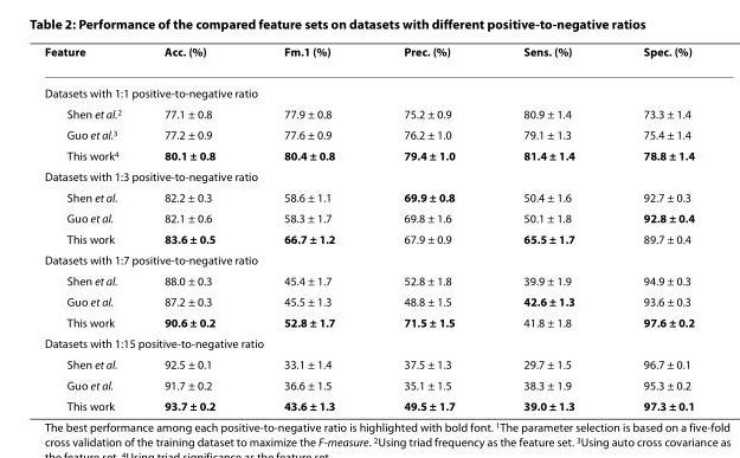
<table><thead><tr><td>Feature</td><td>Acc. (%)</td><td>Fm.<sup>1</sup> (%)</td><td>Prec. (%)</td><td>Sens. (%)</td><td>Spec. (%)</td></tr></thead><tbody><tr><td colspan="6">Datasets with 1:1 positive-to-negative ratio</td></tr><tr><td>Shen et al.<sup>2</sup></td><td>77.1 ± 0.8</td><td>77.9 ± 0.8</td><td>75.2 ± 0.9</td><td>80.9 ± 1.4</td><td>73.3 ± 1.4</td></tr><tr><td>Guo et al.<sup>3</sup></td><td>77.2 ± 0.9</td><td>77.6 ± 0.9</td><td>76.2 ± 1.0</td><td>79.1 ± 1.3</td><td>75.4 ± 1.4</td></tr><tr><td>This work<sup>4</sup></td><td>80.1 ± 0.8</td><td>80.4 ± 0.8</td><td>79.4 ± 1.0</td><td>81.4 ± 1.4</td><td>78.8 ± 1.4</td></tr><tr><td colspan="6">Datasets with 1:3 positive-to-negative ratio</td></tr><tr><td>Shen et al.</td><td>82.2 ± 0.3</td><td>58.6 ± 1.1</td><td>69.9 ± 0.8</td><td>50.4 ± 1.6</td><td>92.7 ± 0.3</td></tr><tr><td>Guo et al.</td><td>82.1 ± 0.6</td><td>58.3 ± 1.7</td><td>69.8 ± 1.6</td><td>50.1 ± 1.8</td><td>92.8 ± 0.4</td></tr><tr><td>This work</td><td>83.6 ± 0.5</td><td>66.7 ± 1.2</td><td>67.9 ± 0.9</td><td>65.5 ± 1.7</td><td>89.7 ± 0.4</td></tr><tr><td colspan="6">Datasets with 1:7 positive-to-negative ratio</td></tr><tr><td>Shen et al.</td><td>88.0 ± 0.3</td><td>45.4 ± 1.7</td><td>52.8 ± 1.8</td><td>39.9 ± 1.9</td><td>94.9 ± 0.3</td></tr><tr><td>Guo et al.</td><td>87.2 ± 0.3</td><td>45.5 ± 1.3</td><td>48.8 ± 1.5</td><td>42.6 ± 1.3</td><td>93.6 ± 0.3</td></tr><tr><td>This work</td><td>90.6 ± 0.2</td><td>52.8 ± 1.7</td><td>71.5 ± 1.5</td><td>41.8 ± 1.8</td><td>97.6 ± 0.2</td></tr><tr><td colspan="6">Datasets with 1:15 positive-to-negative ratio</td></tr><tr><td>Shen et al.</td><td>92.5 ± 0.1</td><td>33.1 ± 1.4</td><td>37.5 ± 1.3</td><td>29.7 ± 1.5</td><td>96.7 ± 0.1</td></tr><tr><td>Guo et al.</td><td>91.7 ± 0.2</td><td>36.6 ± 1.5</td><td>35.1 ± 1.5</td><td>38.3 ± 1.9</td><td>95.3 ± 0.2</td></tr><tr><td>This work</td><td>93.7 ± 0.2</td><td>43.6 ± 1.3</td><td>49.5 ± 1.7</td><td>39.0 ± 1.3</td><td>97.3 ± 0.1</td></tr></tbody></table>